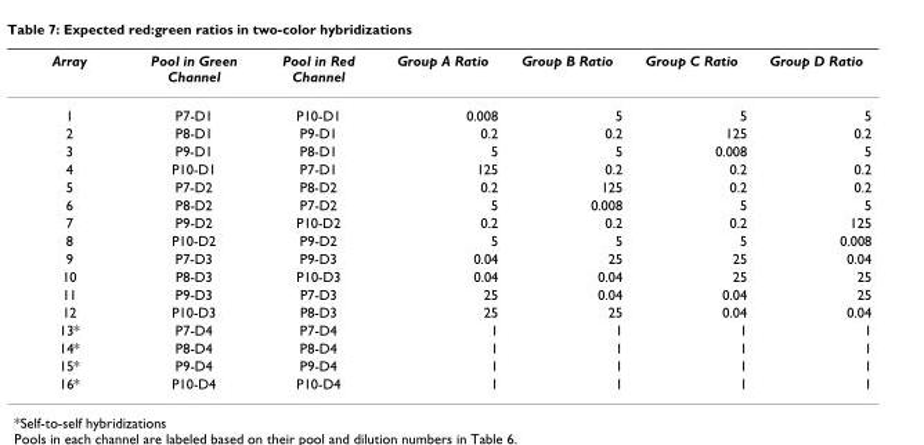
<table><thead><tr><td>Array</td><td>Pool in Green Channel</td><td>Pool in Red Channel</td><td>Group A Ratio</td><td>Group B Ratio</td><td>Group C Ratio</td><td>Group D Ratio</td></tr></thead><tbody><tr><td>1</td><td>P7-D1</td><td>P10-D1</td><td>0.008</td><td>5</td><td>5</td><td>5</td></tr><tr><td>2</td><td>P8-D1</td><td>P9-D1</td><td>0.2</td><td>0.2</td><td>125</td><td>0.2</td></tr><tr><td>3</td><td>P9-D1</td><td>P8-D1</td><td>5</td><td>5</td><td>0.008</td><td>5</td></tr><tr><td>4</td><td>P10-D1</td><td>P7-D1</td><td>125</td><td>0.2</td><td>0.2</td><td>0.2</td></tr><tr><td>5</td><td>P7-D2</td><td>P8-D2</td><td>0.2</td><td>125</td><td>0.2</td><td>0.2</td></tr><tr><td>6</td><td>P8-D2</td><td>P7-D2</td><td>5</td><td>0.008</td><td>5</td><td>5</td></tr><tr><td>7</td><td>P9-D2</td><td>P10-D2</td><td>0.2</td><td>0.2</td><td>0.2</td><td>125</td></tr><tr><td>8</td><td>P10-D2</td><td>P9-D2</td><td>5</td><td>5</td><td>5</td><td>0.008</td></tr><tr><td>9</td><td>P7-D3</td><td>P9-D3</td><td>0.04</td><td>25</td><td>25</td><td>0.04</td></tr><tr><td>10</td><td>P8-D3</td><td>P10-D3</td><td>0.04</td><td>0.04</td><td>25</td><td>25</td></tr><tr><td>11</td><td>P9-D3</td><td>P7-D3</td><td>25</td><td>0.04</td><td>0.04</td><td>25</td></tr><tr><td>12</td><td>P10-D3</td><td>P8-D3</td><td>25</td><td>25</td><td>0.04</td><td>0.04</td></tr><tr><td>13*</td><td>P7-D4</td><td>P7-D4</td><td>1</td><td>1</td><td>1</td><td>1</td></tr><tr><td>14*</td><td>P8-D4</td><td>P8-D4</td><td>1</td><td>1</td><td>1</td><td>1</td></tr><tr><td>15*</td><td>P9-D4</td><td>P9-D4</td><td>1</td><td>1</td><td>1</td><td>1</td></tr><tr><td>16*</td><td>P10-D4</td><td>P10-D4</td><td>1</td><td>1</td><td>1</td><td>1</td></tr></tbody></table>